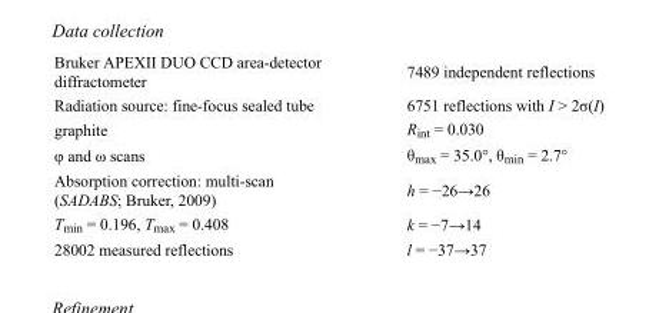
<table><tbody><tr><td>Bruker APEXII DUO CCD area-detector diffractometer</td><td>7489 independent reflections</td></tr><tr><td>Radiation source: fine-focus sealed tube</td><td>6751 reflections with I &gt; 2σ(I)</td></tr><tr><td>graphite</td><td>R<sub>int</sub> = 0.030</td></tr><tr><td>φ and ω scans</td><td>θ<sub>max</sub> = 35.0°, θ<sub>min</sub> = 2.7°</td></tr><tr><td>Absorption correction: multi-scan (SADABS; Bruker, 2009)</td><td>h = −26→26</td></tr><tr><td>T<sub>min</sub> = 0.196, T<sub>max</sub> = 0.408</td><td>k = −7→14</td></tr><tr><td>28002 measured reflections</td><td>l = −37→37</td></tr></tbody></table>